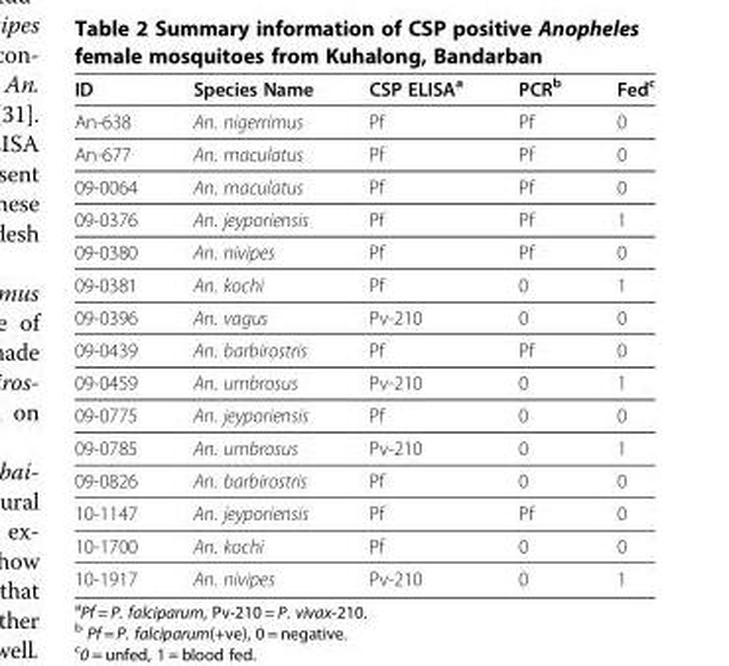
<table><thead><tr><td>ID</td><td>Species Name</td><td>CSP ELISA<sup>a</sup></td><td>PCR<sup>b</sup></td><td>Fed<sup>c</sup></td></tr></thead><tbody><tr><td>An-638</td><td>An. nigerrimus</td><td>Pf</td><td>Pf</td><td>0</td></tr><tr><td>An-677</td><td>An. maculatus</td><td>Pf</td><td>Pf</td><td>0</td></tr><tr><td>09-0064</td><td>An. maculatus</td><td>Pf</td><td>Pf</td><td>0</td></tr><tr><td>09-0376</td><td>An. jeyporiensis</td><td>Pf</td><td>Pf</td><td>1</td></tr><tr><td>09-0380</td><td>An. nivipes</td><td>Pf</td><td>Pf</td><td>0</td></tr><tr><td>09-0381</td><td>An. kochi</td><td>Pf</td><td>0</td><td>1</td></tr><tr><td>09-0396</td><td>An. vagus</td><td>Pv-210</td><td>0</td><td>0</td></tr><tr><td>09-0439</td><td>An. barbirostris</td><td>Pf</td><td>Pf</td><td>0</td></tr><tr><td>09-0459</td><td>An. umbrosus</td><td>Pv-210</td><td>0</td><td>1</td></tr><tr><td>09-0775</td><td>An. jeyporiensis</td><td>Pf</td><td>0</td><td>0</td></tr><tr><td>09-0785</td><td>An. umbrosus</td><td>Pv-210</td><td>0</td><td>1</td></tr><tr><td>09-0826</td><td>An. barbirostris</td><td>Pf</td><td>0</td><td>0</td></tr><tr><td>10-1147</td><td>An. jeyporiensis</td><td>Pf</td><td>Pf</td><td>0</td></tr><tr><td>10-1700</td><td>An. kochi</td><td>Pf</td><td>0</td><td>0</td></tr><tr><td>10-1917</td><td>An. nivipes</td><td>Pv-210</td><td>0</td><td>1</td></tr></tbody></table>